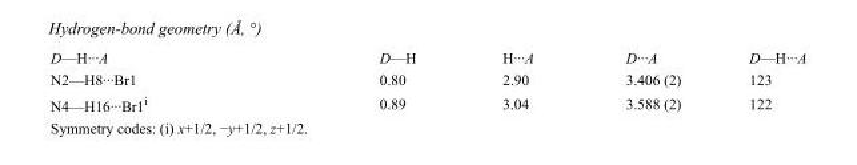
<table><tbody><tr><td>D—H···A</td><td>D—H</td><td>H···A</td><td>D···A</td><td>D—H···A</td></tr><tr><td>N2—H8···Br1</td><td>0.80</td><td>2.90</td><td>3.406 (2)</td><td>123</td></tr><tr><td>N4—H16···Br1<sup>i</sup></td><td>0.89</td><td>3.04</td><td>3.588 (2)</td><td>122</td></tr></tbody></table>